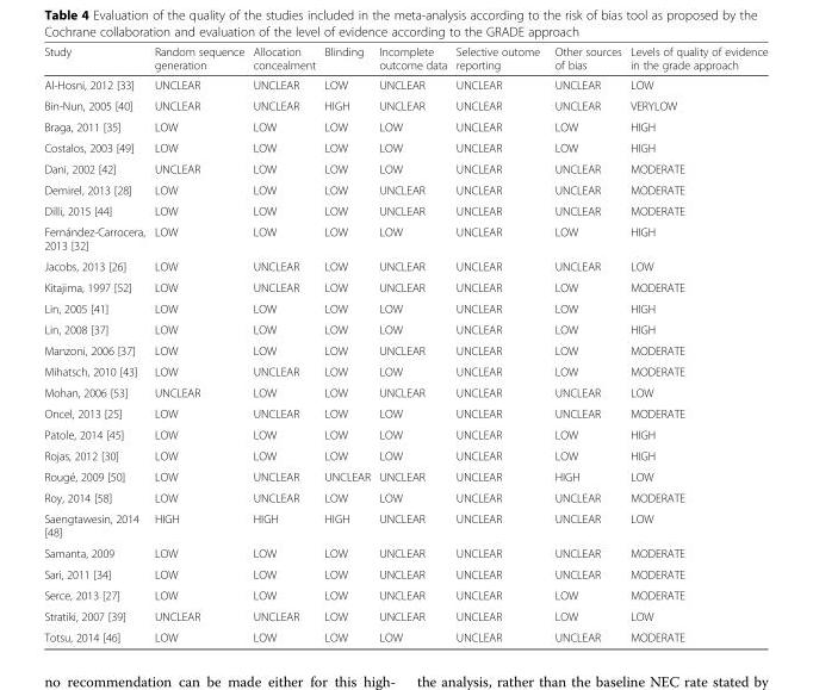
<table><thead><tr><td>Study</td><td>Random sequence generation</td><td>Allocation concealment</td><td>Blinding</td><td>Incomplete outcome data</td><td>Selective outome reporting</td><td>Other sources of bias</td><td>Levels of quality of evidence in the grade approach</td></tr></thead><tbody><tr><td>Al-Hosni, 2012 [33]</td><td>UNCLEAR</td><td>UNCLEAR</td><td>LOW</td><td>UNCLEAR</td><td>UNCLEAR</td><td>UNCLEAR</td><td>LOW</td></tr><tr><td>Bin-Nun, 2005 [40]</td><td>UNCLEAR</td><td>UNCLEAR</td><td>HIGH</td><td>UNCLEAR</td><td>UNCLEAR</td><td>UNCLEAR</td><td>VERYLOW</td></tr><tr><td>Braga, 2011 [35]</td><td>LOW</td><td>LOW</td><td>LOW</td><td>LOW</td><td>UNCLEAR</td><td>LOW</td><td>HIGH</td></tr><tr><td>Costalos, 2003 [49]</td><td>LOW</td><td>LOW</td><td>LOW</td><td>LOW</td><td>UNCLEAR</td><td>LOW</td><td>HIGH</td></tr><tr><td>Dani, 2002 [42]</td><td>UNCLEAR</td><td>LOW</td><td>LOW</td><td>LOW</td><td>UNCLEAR</td><td>UNCLEAR</td><td>MODERATE</td></tr><tr><td>Demirel, 2013 [28]</td><td>LOW</td><td>LOW</td><td>LOW</td><td>UNCLEAR</td><td>UNCLEAR</td><td>UNCLEAR</td><td>MODERATE</td></tr><tr><td>Dilli, 2015 [44]</td><td>LOW</td><td>LOW</td><td>LOW</td><td>UNCLEAR</td><td>UNCLEAR</td><td>UNCLEAR</td><td>MODERATE</td></tr><tr><td>Fernández-Carrocera, 2013 [32]</td><td>LOW</td><td>LOW</td><td>LOW</td><td>LOW</td><td>UNCLEAR</td><td>LOW</td><td>HIGH</td></tr><tr><td>Jacobs, 2013 [26]</td><td>LOW</td><td>UNCLEAR</td><td>LOW</td><td>UNCLEAR</td><td>UNCLEAR</td><td>UNCLEAR</td><td>LOW</td></tr><tr><td>Kitajima, 1997 [52]</td><td>LOW</td><td>UNCLEAR</td><td>LOW</td><td>UNCLEAR</td><td>UNCLEAR</td><td>LOW</td><td>MODERATE</td></tr><tr><td>Lin, 2005 [41]</td><td>LOW</td><td>LOW</td><td>LOW</td><td>LOW</td><td>UNCLEAR</td><td>LOW</td><td>HIGH</td></tr><tr><td>Lin, 2008 [37]</td><td>LOW</td><td>LOW</td><td>LOW</td><td>LOW</td><td>UNCLEAR</td><td>LOW</td><td>HIGH</td></tr><tr><td>Manzoni, 2006 [37]</td><td>LOW</td><td>LOW</td><td>LOW</td><td>UNCLEAR</td><td>UNCLEAR</td><td>LOW</td><td>MODERATE</td></tr><tr><td>Mihatsch, 2010 [43]</td><td>LOW</td><td>UNCLEAR</td><td>LOW</td><td>LOW</td><td>UNCLEAR</td><td>LOW</td><td>MODERATE</td></tr><tr><td>Mohan, 2006 [53]</td><td>UNCLEAR</td><td>LOW</td><td>LOW</td><td>UNCLEAR</td><td>UNCLEAR</td><td>UNCLEAR</td><td>LOW</td></tr><tr><td>Oncel, 2013 [25]</td><td>LOW</td><td>UNCLEAR</td><td>LOW</td><td>LOW</td><td>UNCLEAR</td><td>UNCLEAR</td><td>MODERATE</td></tr><tr><td>Patole, 2014 [45]</td><td>LOW</td><td>LOW</td><td>LOW</td><td>LOW</td><td>UNCLEAR</td><td>LOW</td><td>HIGH</td></tr><tr><td>Rojas, 2012 [30]</td><td>LOW</td><td>LOW</td><td>LOW</td><td>LOW</td><td>UNCLEAR</td><td>LOW</td><td>HIGH</td></tr><tr><td>Rougé, 2009 [50]</td><td>LOW</td><td>UNCLEAR</td><td>UNCLEAR</td><td>UNCLEAR</td><td>UNCLEAR</td><td>HIGH</td><td>LOW</td></tr><tr><td>Roy, 2014 [58]</td><td>LOW</td><td>UNCLEAR</td><td>LOW</td><td>LOW</td><td>UNCLEAR</td><td>UNCLEAR</td><td>MODERATE</td></tr><tr><td>Saengtawesin, 2014 [48]</td><td>HIGH</td><td>HIGH</td><td>HIGH</td><td>UNCLEAR</td><td>UNCLEAR</td><td>UNCLEAR</td><td>LOW</td></tr><tr><td>Samanta, 2009</td><td>LOW</td><td>LOW</td><td>LOW</td><td>UNCLEAR</td><td>UNCLEAR</td><td>UNCLEAR</td><td>MODERATE</td></tr><tr><td>Sari, 2011 [34]</td><td>LOW</td><td>LOW</td><td>LOW</td><td>UNCLEAR</td><td>UNCLEAR</td><td>UNCLEAR</td><td>MODERATE</td></tr><tr><td>Serce, 2013 [27]</td><td>LOW</td><td>LOW</td><td>LOW</td><td>UNCLEAR</td><td>UNCLEAR</td><td>LOW</td><td>MODERATE</td></tr><tr><td>Stratiki, 2007 [39]</td><td>UNCLEAR</td><td>UNCLEAR</td><td>LOW</td><td>UNCLEAR</td><td>UNCLEAR</td><td>LOW</td><td>LOW</td></tr><tr><td>Totsu, 2014 [46]</td><td>LOW</td><td>LOW</td><td>LOW</td><td>LOW</td><td>UNCLEAR</td><td>UNCLEAR</td><td>MODERATE</td></tr></tbody></table>